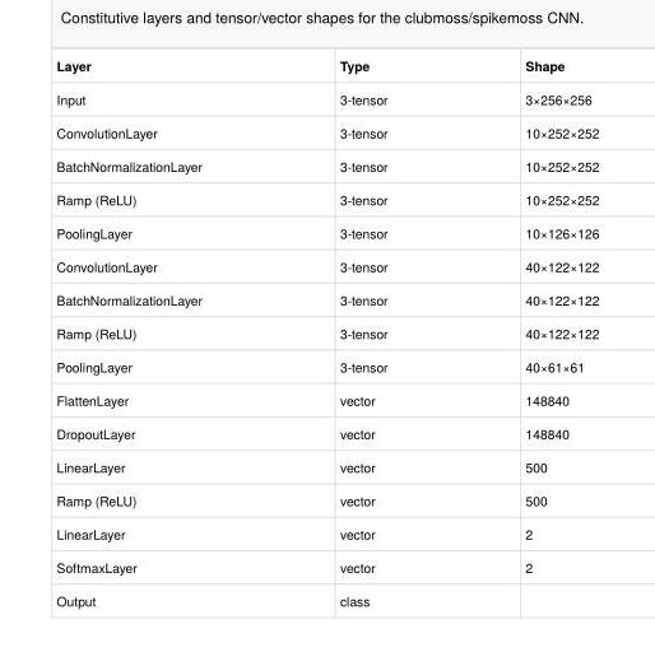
<table><tbody><tr><td>Layer</td><td>Type</td><td>Shape</td></tr><tr><td>Input</td><td>3-tensor</td><td>3×256×256</td></tr><tr><td>ConvolutionLayer</td><td>3-tensor</td><td>10×252×252</td></tr><tr><td>BatchNormalizationLayer</td><td>3-tensor</td><td>10×252×252</td></tr><tr><td>Ramp (ReLU)</td><td>3-tensor</td><td>10×252×252</td></tr><tr><td>PoolingLayer</td><td>3-tensor</td><td>10×126×126</td></tr><tr><td>ConvolutionLayer</td><td>3-tensor</td><td>40×122×122</td></tr><tr><td>BatchNormalizationLayer</td><td>3-tensor</td><td>40×122×122</td></tr><tr><td>Ramp (ReLU)</td><td>3-tensor</td><td>40×122×122</td></tr><tr><td>PoolingLayer</td><td>3-tensor</td><td>40×61×61</td></tr><tr><td>FlattenLayer</td><td>vector</td><td>148840</td></tr><tr><td>DropoutLayer</td><td>vector</td><td>148840</td></tr><tr><td>LinearLayer</td><td>vector</td><td>500</td></tr><tr><td>Ramp (ReLU)</td><td>vector</td><td>500</td></tr><tr><td>LinearLayer</td><td>vector</td><td>2</td></tr><tr><td>SoftmaxLayer</td><td>vector</td><td>2</td></tr><tr><td>Output</td><td>class</td><td></td></tr></tbody></table>